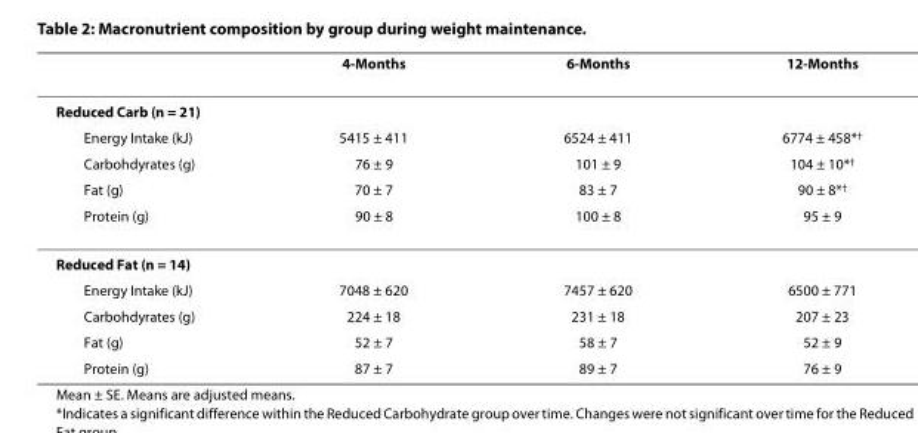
<table><thead><tr><td></td><td>4-Months</td><td>6-Months</td><td>12-Months</td></tr></thead><tbody><tr><td colspan="4">Reduced Carb (n = 21)</td></tr><tr><td>Energy Intake (kJ)</td><td>5415 ± 411</td><td>6524 ± 411</td><td>6774 ± 458*<sup>†</sup></td></tr><tr><td>Carbohdyrates (g)</td><td>76 ± 9</td><td>101 ± 9</td><td>104 ± 10*<sup>†</sup></td></tr><tr><td>Fat (g)</td><td>70 ± 7</td><td>83 ± 7</td><td>90 ± 8*<sup>†</sup></td></tr><tr><td>Protein (g)</td><td>90 ± 8</td><td>100 ± 8</td><td>95 ± 9</td></tr><tr><td colspan="4">Reduced Fat (n = 14)</td></tr><tr><td>Energy Intake (kJ)</td><td>7048 ± 620</td><td>7457 ± 620</td><td>6500 ± 771</td></tr><tr><td>Carbohdyrates (g)</td><td>224 ± 18</td><td>231 ± 18</td><td>207 ± 23</td></tr><tr><td>Fat (g)</td><td>52 ± 7</td><td>58 ± 7</td><td>52 ± 9</td></tr><tr><td>Protein (g)</td><td>87 ± 7</td><td>89 ± 7</td><td>76 ± 9</td></tr></tbody></table>